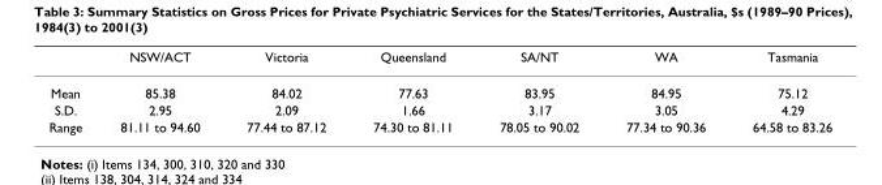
<table><thead><tr><td></td><td>NSW/ACT</td><td>Victoria</td><td>Queensland</td><td>SA/NT</td><td>WA</td><td>Tasmania</td></tr></thead><tbody><tr><td>Mean</td><td>85.38</td><td>84.02</td><td>77.63</td><td>83.95</td><td>84.95</td><td>75.12</td></tr><tr><td>S.D.</td><td>2.95</td><td>2.09</td><td>1.66</td><td>3.17</td><td>3.05</td><td>4.29</td></tr><tr><td>Range</td><td>81.11 to 94.60</td><td>77.44 to 87.12</td><td>74.30 to 81.11</td><td>78.05 to 90.02</td><td>77.34 to 90.36</td><td>64.58 to 83.26</td></tr></tbody></table>